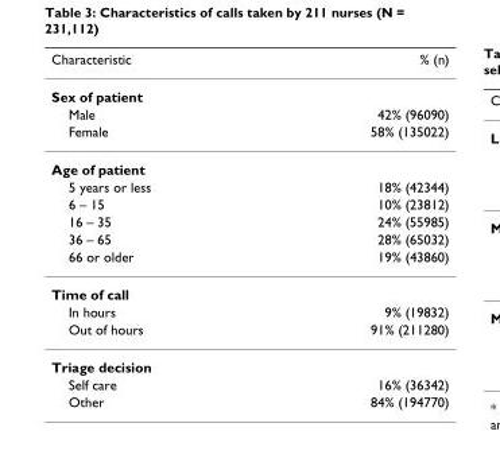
<table><thead><tr><td>Characteristic</td><td>% (n)</td></tr></thead><tbody><tr><td colspan="2">Sex of patient</td></tr><tr><td>Male</td><td>42% (96090)</td></tr><tr><td>Female</td><td>58% (135022)</td></tr><tr><td colspan="2">Age of patient</td></tr><tr><td>5 years or less</td><td>18% (42344)</td></tr><tr><td>6 – 15</td><td>10% (23812)</td></tr><tr><td>16 – 35</td><td>24% (55985)</td></tr><tr><td>36 – 65</td><td>28% (65032)</td></tr><tr><td>66 or older</td><td>19% (43860)</td></tr><tr><td colspan="2">Time of call</td></tr><tr><td>In hours</td><td>9% (19832)</td></tr><tr><td>Out of hours</td><td>91% (211280)</td></tr><tr><td colspan="2">Triage decision</td></tr><tr><td>Self care</td><td>16% (36342)</td></tr><tr><td>Other</td><td>84% (194770)</td></tr></tbody></table>